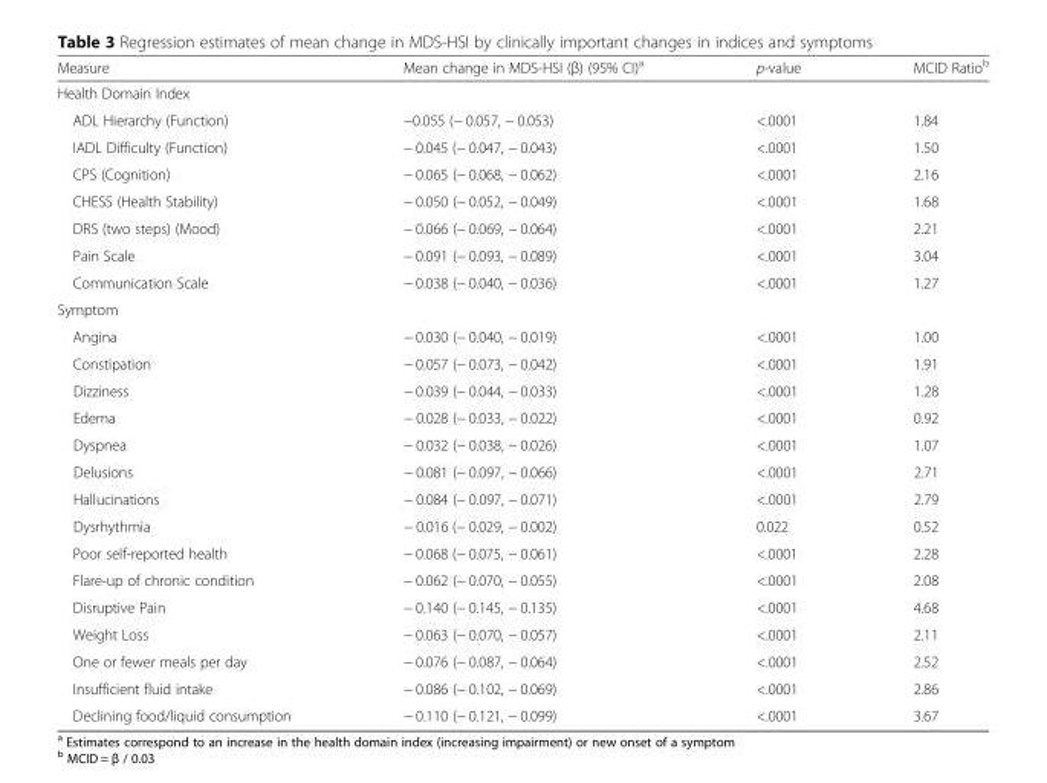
<table><thead><tr><td>Measure</td><td>Mean change in MDS-HSI (β) (95% CI)<sup>a</sup></td><td>p-value</td><td>MCID Ratio<sup>b</sup></td></tr></thead><tbody><tr><td colspan="4">Health Domain Index</td></tr><tr><td>ADL Hierarchy (Function)</td><td>−0.055 (− 0.057, − 0.053)</td><td>&lt;.0001</td><td>1.84</td></tr><tr><td>IADL Difficulty (Function)</td><td>− 0.045 (− 0.047, − 0.043)</td><td>&lt;.0001</td><td>1.50</td></tr><tr><td>CPS (Cognition)</td><td>− 0.065 (− 0.068, − 0.062)</td><td>&lt;.0001</td><td>2.16</td></tr><tr><td>CHESS (Health Stability)</td><td>− 0.050 (− 0.052, − 0.049)</td><td>&lt;.0001</td><td>1.68</td></tr><tr><td>DRS (two steps) (Mood)</td><td>− 0.066 (− 0.069, − 0.064)</td><td>&lt;.0001</td><td>2.21</td></tr><tr><td>Pain Scale</td><td>− 0.091 (− 0.093, − 0.089)</td><td>&lt;.0001</td><td>3.04</td></tr><tr><td>Communication Scale</td><td>− 0.038 (− 0.040, − 0.036)</td><td>&lt;.0001</td><td>1.27</td></tr><tr><td colspan="4">Symptom</td></tr><tr><td>Angina</td><td>− 0.030 (− 0.040, − 0.019)</td><td>&lt;.0001</td><td>1.00</td></tr><tr><td>Constipation</td><td>− 0.057 (− 0.073, − 0.042)</td><td>&lt;.0001</td><td>1.91</td></tr><tr><td>Dizziness</td><td>− 0.039 (− 0.044, − 0.033)</td><td>&lt;.0001</td><td>1.28</td></tr><tr><td>Edema</td><td>− 0.028 (− 0.033, − 0.022)</td><td>&lt;.0001</td><td>0.92</td></tr><tr><td>Dyspnea</td><td>− 0.032 (− 0.038, − 0.026)</td><td>&lt;.0001</td><td>1.07</td></tr><tr><td>Delusions</td><td>− 0.081 (− 0.097, − 0.066)</td><td>&lt;.0001</td><td>2.71</td></tr><tr><td>Hallucinations</td><td>− 0.084 (− 0.097, − 0.071)</td><td>&lt;.0001</td><td>2.79</td></tr><tr><td>Dysrhythmia</td><td>− 0.016 (− 0.029, − 0.002)</td><td>0.022</td><td>0.52</td></tr><tr><td>Poor self-reported health</td><td>− 0.068 (− 0.075, − 0.061)</td><td>&lt;.0001</td><td>2.28</td></tr><tr><td>Flare-up of chronic condition</td><td>− 0.062 (− 0.070, − 0.055)</td><td>&lt;.0001</td><td>2.08</td></tr><tr><td>Disruptive Pain</td><td>− 0.140 (− 0.145, − 0.135)</td><td>&lt;.0001</td><td>4.68</td></tr><tr><td>Weight Loss</td><td>− 0.063 (− 0.070, − 0.057)</td><td>&lt;.0001</td><td>2.11</td></tr><tr><td>One or fewer meals per day</td><td>− 0.076 (− 0.087, − 0.064)</td><td>&lt;.0001</td><td>2.52</td></tr><tr><td>Insufficient fluid intake</td><td>− 0.086 (− 0.102, − 0.069)</td><td>&lt;.0001</td><td>2.86</td></tr><tr><td>Declining food/liquid consumption</td><td>− 0.110 (− 0.121, − 0.099)</td><td>&lt;.0001</td><td>3.67</td></tr></tbody></table>